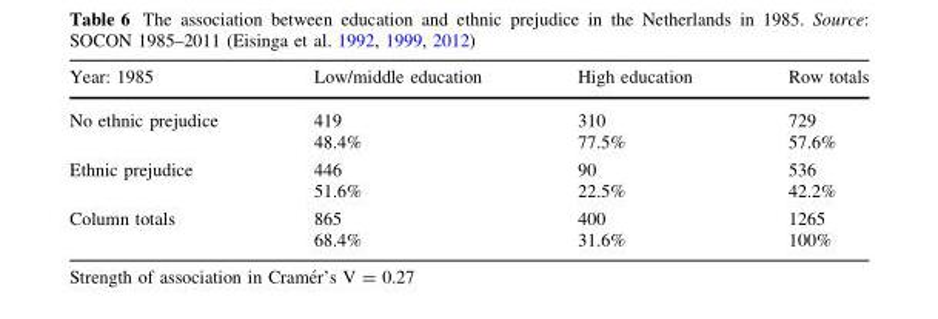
<table><thead><tr><td>Year: 1985</td><td>Low/middle education</td><td>High education</td><td>Row totals</td></tr></thead><tbody><tr><td>No ethnic prejudice</td><td>419 48.4%</td><td>310 77.5%</td><td>729 57.6%</td></tr><tr><td>Ethnic prejudice</td><td>446 51.6%</td><td>90 22.5%</td><td>536 42.2%</td></tr><tr><td>Column totals</td><td>865 68.4%</td><td>400 31.6%</td><td>1265 100%</td></tr></tbody></table>